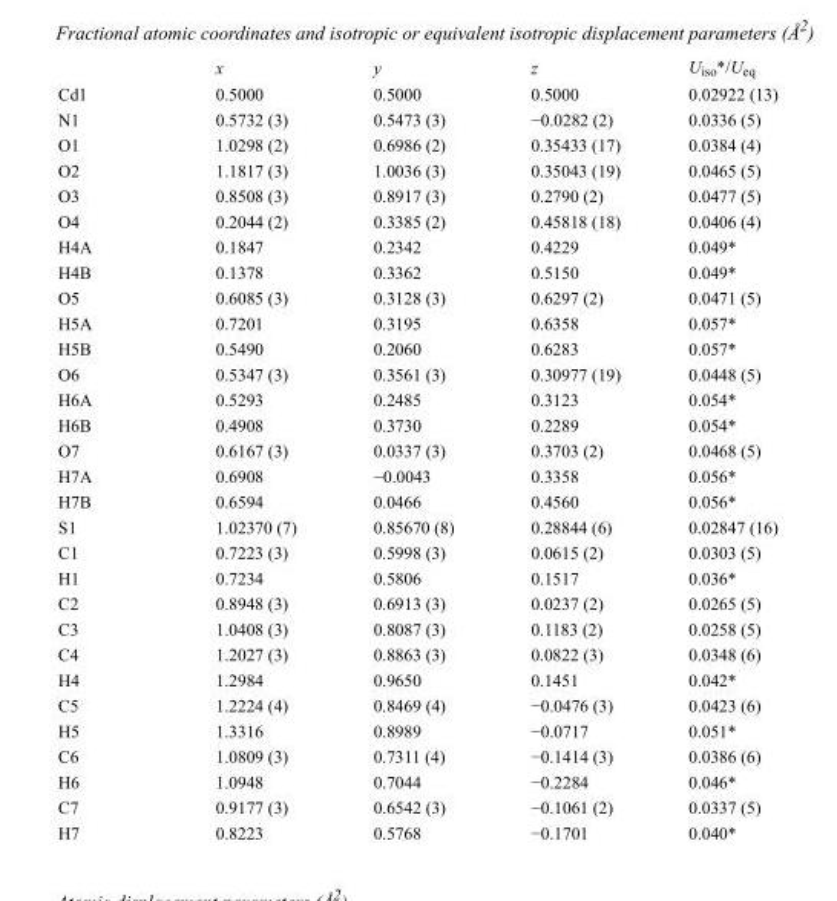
<table><thead><tr><td></td><td>x</td><td>y</td><td>z</td><td>U<sub>iso</sub>*/U<sub>eq</sub></td></tr></thead><tbody><tr><td>Cd1</td><td>0.5000</td><td>0.5000</td><td>0.5000</td><td>0.02922 (13)</td></tr><tr><td>N1</td><td>0.5732 (3)</td><td>0.5473 (3)</td><td>−0.0282 (2)</td><td>0.0336 (5)</td></tr><tr><td>O1</td><td>1.0298 (2)</td><td>0.6986 (2)</td><td>0.35433 (17)</td><td>0.0384 (4)</td></tr><tr><td>O2</td><td>1.1817 (3)</td><td>1.0036 (3)</td><td>0.35043 (19)</td><td>0.0465 (5)</td></tr><tr><td>O3</td><td>0.8508 (3)</td><td>0.8917 (3)</td><td>0.2790 (2)</td><td>0.0477 (5)</td></tr><tr><td>O4</td><td>0.2044 (2)</td><td>0.3385 (2)</td><td>0.45818 (18)</td><td>0.0406 (4)</td></tr><tr><td>H4A</td><td>0.1847</td><td>0.2342</td><td>0.4229</td><td>0.049*</td></tr><tr><td>H4B</td><td>0.1378</td><td>0.3362</td><td>0.5150</td><td>0.049*</td></tr><tr><td>O5</td><td>0.6085 (3)</td><td>0.3128 (3)</td><td>0.6297 (2)</td><td>0.0471 (5)</td></tr><tr><td>H5A</td><td>0.7201</td><td>0.3195</td><td>0.6358</td><td>0.057*</td></tr><tr><td>H5B</td><td>0.5490</td><td>0.2060</td><td>0.6283</td><td>0.057*</td></tr><tr><td>O6</td><td>0.5347 (3)</td><td>0.3561 (3)</td><td>0.30977 (19)</td><td>0.0448 (5)</td></tr><tr><td>H6A</td><td>0.5293</td><td>0.2485</td><td>0.3123</td><td>0.054*</td></tr><tr><td>H6B</td><td>0.4908</td><td>0.3730</td><td>0.2289</td><td>0.054*</td></tr><tr><td>O7</td><td>0.6167 (3)</td><td>0.0337 (3)</td><td>0.3703 (2)</td><td>0.0468 (5)</td></tr><tr><td>H7A</td><td>0.6908</td><td>−0.0043</td><td>0.3358</td><td>0.056*</td></tr><tr><td>H7B</td><td>0.6594</td><td>0.0466</td><td>0.4560</td><td>0.056*</td></tr><tr><td>S1</td><td>1.02370 (7)</td><td>0.85670 (8)</td><td>0.28844 (6)</td><td>0.02847 (16)</td></tr><tr><td>C1</td><td>0.7223 (3)</td><td>0.5998 (3)</td><td>0.0615 (2)</td><td>0.0303 (5)</td></tr><tr><td>H1</td><td>0.7234</td><td>0.5806</td><td>0.1517</td><td>0.036*</td></tr><tr><td>C2</td><td>0.8948 (3)</td><td>0.6913 (3)</td><td>0.0237 (2)</td><td>0.0265 (5)</td></tr><tr><td>C3</td><td>1.0408 (3)</td><td>0.8087 (3)</td><td>0.1183 (2)</td><td>0.0258 (5)</td></tr><tr><td>C4</td><td>1.2027 (3)</td><td>0.8863 (3)</td><td>0.0822 (3)</td><td>0.0348 (6)</td></tr><tr><td>H4</td><td>1.2984</td><td>0.9650</td><td>0.1451</td><td>0.042*</td></tr><tr><td>C5</td><td>1.2224 (4)</td><td>0.8469 (4)</td><td>−0.0476 (3)</td><td>0.0423 (6)</td></tr><tr><td>H5</td><td>1.3316</td><td>0.8989</td><td>−0.0717</td><td>0.051*</td></tr><tr><td>C6</td><td>1.0809 (3)</td><td>0.7311 (4)</td><td>−0.1414 (3)</td><td>0.0386 (6)</td></tr><tr><td>H6</td><td>1.0948</td><td>0.7044</td><td>−0.2284</td><td>0.046*</td></tr><tr><td>C7</td><td>0.9177 (3)</td><td>0.6542 (3)</td><td>−0.1061 (2)</td><td>0.0337 (5)</td></tr><tr><td>H7</td><td>0.8223</td><td>0.5768</td><td>−0.1701</td><td>0.040*</td></tr></tbody></table>